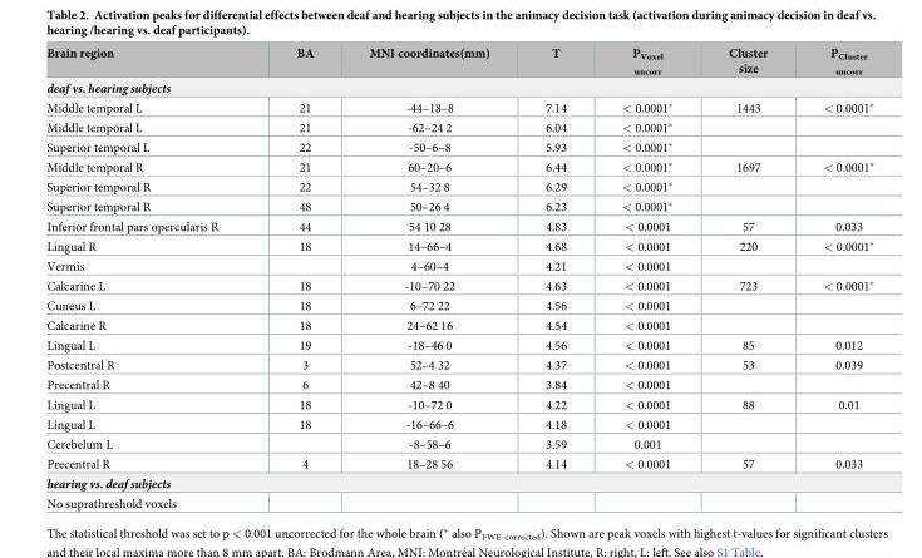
<table><thead><tr><td>Brain region</td><td>BA</td><td>MNI coordinates(mm)</td><td>T</td><td>P<sub>Voxel uncorr</sub></td><td>Cluster size</td><td>P<sub>Cluster uncorr</sub></td></tr></thead><tbody><tr><td colspan="7">deaf vs. hearing subjects</td></tr><tr><td>Middle temporal L</td><td>21</td><td>-44–18–8</td><td>7.14</td><td>&lt; 0.0001*</td><td>1443</td><td>&lt; 0.0001*</td></tr><tr><td>Middle temporal L</td><td>21</td><td>-62–24 2</td><td>6.04</td><td>&lt; 0.0001*</td><td></td><td></td></tr><tr><td>Superior temporal L</td><td>22</td><td>-50–6–8</td><td>5.93</td><td>&lt; 0.0001*</td><td></td><td></td></tr><tr><td>Middle temporal R</td><td>21</td><td>60–20–6</td><td>6.44</td><td>&lt; 0.0001*</td><td>1697</td><td>&lt; 0.0001*</td></tr><tr><td>Superior temporal R</td><td>22</td><td>54–32 8</td><td>6.29</td><td>&lt; 0.0001*</td><td></td><td></td></tr><tr><td>Superior temporal R</td><td>48</td><td>50–26 4</td><td>6.23</td><td>&lt; 0.0001*</td><td></td><td></td></tr><tr><td>Inferior frontal pars opercularis R</td><td>44</td><td>54 10 28</td><td>4.83</td><td>&lt; 0.0001</td><td>57</td><td>0.033</td></tr><tr><td>Lingual R</td><td>18</td><td>14–66–4</td><td>4.68</td><td>&lt; 0.0001</td><td>220</td><td>&lt; 0.0001*</td></tr><tr><td>Vermis</td><td></td><td>4–60–4</td><td>4.21</td><td>&lt; 0.0001</td><td></td><td></td></tr><tr><td>Calcarine L</td><td>18</td><td>-10–70 22</td><td>4.63</td><td>&lt; 0.0001</td><td>723</td><td>&lt; 0.0001*</td></tr><tr><td>Cuneus L</td><td>18</td><td>6–72 22</td><td>4.56</td><td>&lt; 0.0001</td><td></td><td></td></tr><tr><td>Calcarine R</td><td>18</td><td>24–62 16</td><td>4.54</td><td>&lt; 0.0001</td><td></td><td></td></tr><tr><td>Lingual L</td><td>19</td><td>-18–46 0</td><td>4.56</td><td>&lt; 0.0001</td><td>85</td><td>0.012</td></tr><tr><td>Postcentral R</td><td>3</td><td>52–4 32</td><td>4.37</td><td>&lt; 0.0001</td><td>53</td><td>0.039</td></tr><tr><td>Precentral R</td><td>6</td><td>42–8 40</td><td>3.84</td><td>&lt; 0.0001</td><td></td><td></td></tr><tr><td>Lingual L</td><td>18</td><td>-10–72 0</td><td>4.22</td><td>&lt; 0.0001</td><td>88</td><td>0.01</td></tr><tr><td>Lingual L</td><td>18</td><td>-16–66–6</td><td>4.18</td><td>&lt; 0.0001</td><td></td><td></td></tr><tr><td>Cerebelum L</td><td></td><td>-8–58–6</td><td>3.59</td><td>0.001</td><td></td><td></td></tr><tr><td>Precentral R</td><td>4</td><td>18–28 56</td><td>4.14</td><td>&lt; 0.0001</td><td>57</td><td>0.033</td></tr><tr><td colspan="7">hearing vs. deaf subjects</td></tr><tr><td>No suprathreshold voxels</td><td></td><td></td><td></td><td></td><td></td><td></td></tr></tbody></table>